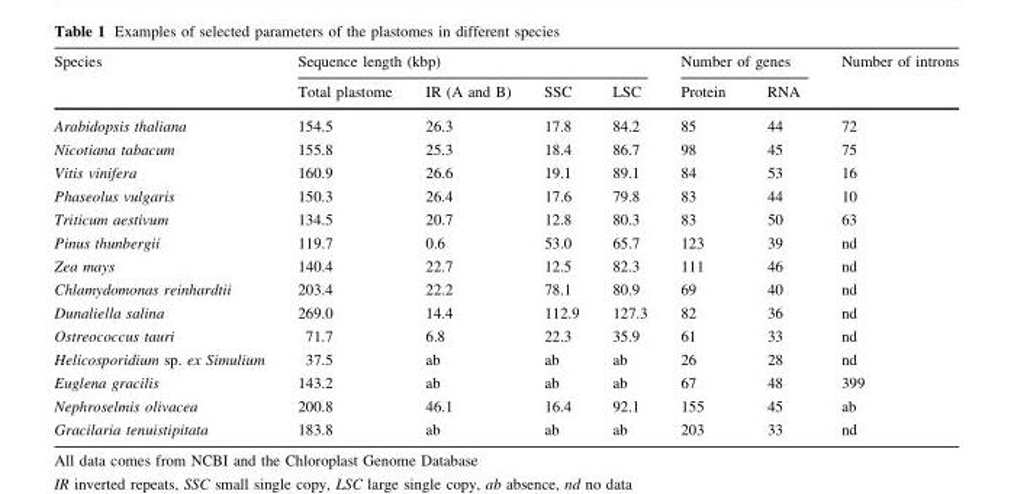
<table><thead><tr><td rowspan="2">Species</td><td colspan="4">Sequence length (kbp)</td><td colspan="2">Number of genes</td><td rowspan="2">Number of introns</td></tr><tr><td>Total plastome</td><td>IR (A and B)</td><td>SSC</td><td>LSC</td><td>Protein</td><td>RNA</td></tr></thead><tbody><tr><td>Arabidopsis thaliana</td><td>154.5</td><td>26.3</td><td>17.8</td><td>84.2</td><td>85</td><td>44</td><td>72</td></tr><tr><td>Nicotiana tabacum</td><td>155.8</td><td>25.3</td><td>18.4</td><td>86.7</td><td>98</td><td>45</td><td>75</td></tr><tr><td>Vitis vinifera</td><td>160.9</td><td>26.6</td><td>19.1</td><td>89.1</td><td>84</td><td>53</td><td>16</td></tr><tr><td>Phaseolus vulgaris</td><td>150.3</td><td>26.4</td><td>17.6</td><td>79.8</td><td>83</td><td>44</td><td>10</td></tr><tr><td>Triticum aestivum</td><td>134.5</td><td>20.7</td><td>12.8</td><td>80.3</td><td>83</td><td>50</td><td>63</td></tr><tr><td>Pinus thunbergii</td><td>119.7</td><td>0.6</td><td>53.0</td><td>65.7</td><td>123</td><td>39</td><td>nd</td></tr><tr><td>Zea mays</td><td>140.4</td><td>22.7</td><td>12.5</td><td>82.3</td><td>111</td><td>46</td><td>nd</td></tr><tr><td>Chlamydomonas reinhardtii</td><td>203.4</td><td>22.2</td><td>78.1</td><td>80.9</td><td>69</td><td>40</td><td>nd</td></tr><tr><td>Dunaliella salina</td><td>269.0</td><td>14.4</td><td>112.9</td><td>127.3</td><td>82</td><td>36</td><td>nd</td></tr><tr><td>Ostreococcus tauri</td><td>71.7</td><td>6.8</td><td>22.3</td><td>35.9</td><td>61</td><td>33</td><td>nd</td></tr><tr><td>Helicosporidium sp. ex Simulium</td><td>37.5</td><td>ab</td><td>ab</td><td>ab</td><td>26</td><td>28</td><td>nd</td></tr><tr><td>Euglena gracilis</td><td>143.2</td><td>ab</td><td>ab</td><td>ab</td><td>67</td><td>48</td><td>399</td></tr><tr><td>Nephroselmis olivacea</td><td>200.8</td><td>46.1</td><td>16.4</td><td>92.1</td><td>155</td><td>45</td><td>ab</td></tr><tr><td>Gracilaria tenuistipitata</td><td>183.8</td><td>ab</td><td>ab</td><td>ab</td><td>203</td><td>33</td><td>nd</td></tr></tbody></table>